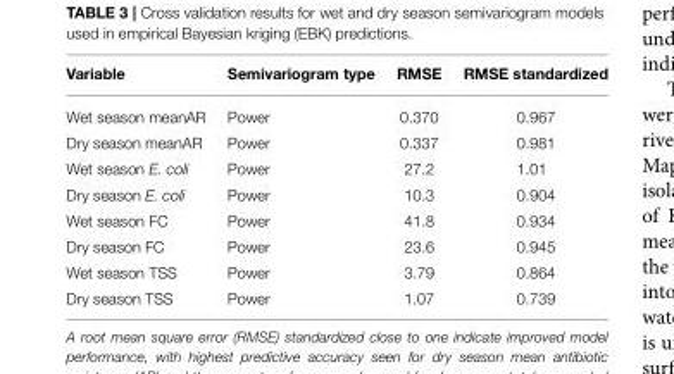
<table><thead><tr><td>Variable</td><td>Semivariogram type</td><td>RMSE</td><td>RMSE standardized</td></tr></thead><tbody><tr><td>Wet season meanAR</td><td>Power</td><td>0.370</td><td>0.967</td></tr><tr><td>Dry season meanAR</td><td>Power</td><td>0.337</td><td>0.981</td></tr><tr><td>Wet season E. coli</td><td>Power</td><td>27.2</td><td>1.01</td></tr><tr><td>Dry season E. coli</td><td>Power</td><td>10.3</td><td>0.904</td></tr><tr><td>Wet season FC</td><td>Power</td><td>41.8</td><td>0.934</td></tr><tr><td>Dry season FC</td><td>Power</td><td>23.6</td><td>0.945</td></tr><tr><td>Wet season TSS</td><td>Power</td><td>3.79</td><td>0.864</td></tr><tr><td>Dry season TSS</td><td>Power</td><td>1.07</td><td>0.739</td></tr></tbody></table>